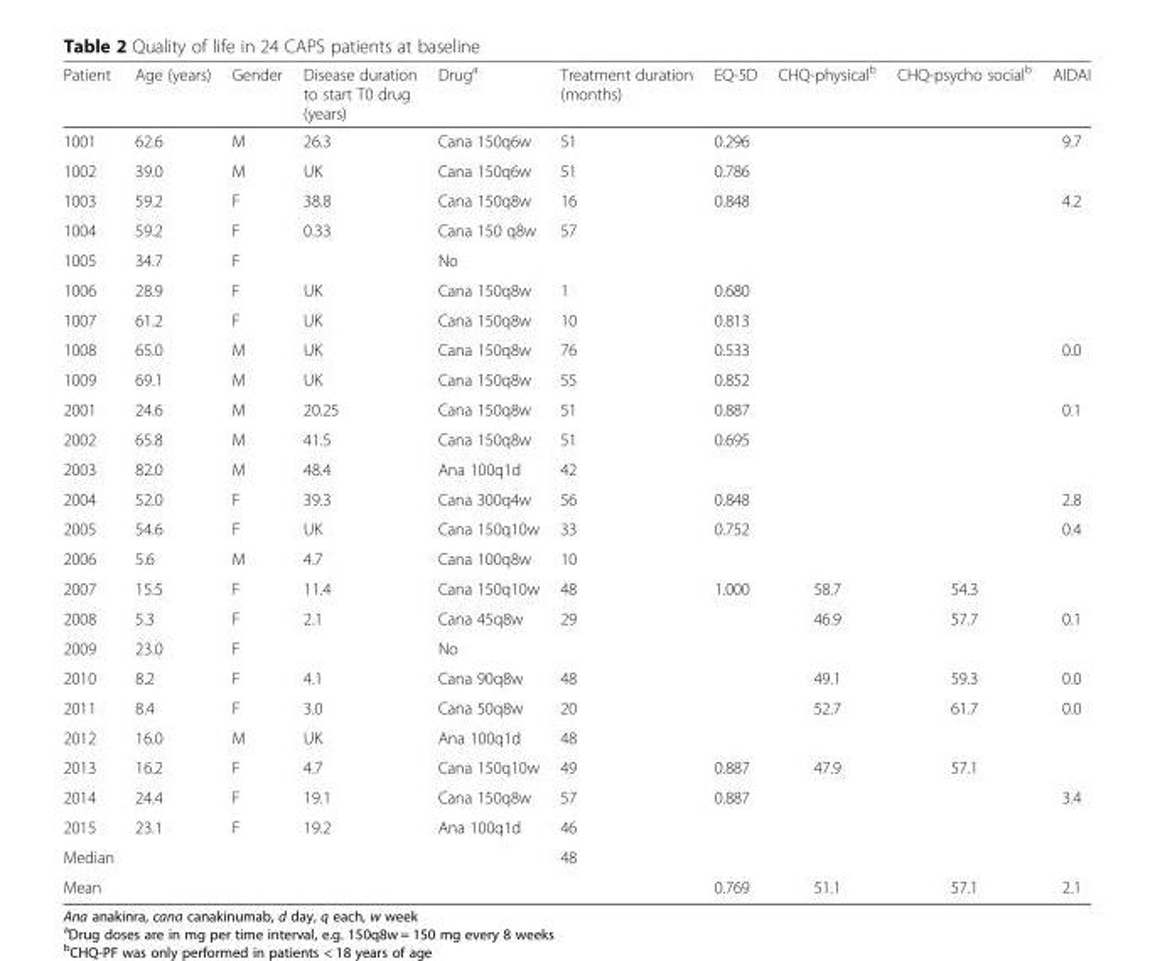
<table><thead><tr><td>Patient</td><td>Age (years)</td><td>Gender</td><td>Disease duration to start T0 drug (years)</td><td>Drug<sup>a</sup></td><td>Treatment duration (months)</td><td>EQ-5D</td><td>CHQ-physical<sup>b</sup></td><td>CHQ-psycho social<sup>b</sup></td><td>AIDAI</td></tr></thead><tbody><tr><td>1001</td><td>62.6</td><td>M</td><td>26.3</td><td>Cana 150q6w</td><td>51</td><td>0.296</td><td></td><td></td><td>9.7</td></tr><tr><td>1002</td><td>39.0</td><td>M</td><td>UK</td><td>Cana 150q6w</td><td>51</td><td>0.786</td><td></td><td></td><td></td></tr><tr><td>1003</td><td>59.2</td><td>F</td><td>38.8</td><td>Cana 150q8w</td><td>16</td><td>0.848</td><td></td><td></td><td>4.2</td></tr><tr><td>1004</td><td>59.2</td><td>F</td><td>0.33</td><td>Cana 150 q8w</td><td>57</td><td></td><td></td><td></td><td></td></tr><tr><td>1005</td><td>34.7</td><td>F</td><td></td><td>No</td><td></td><td></td><td></td><td></td><td></td></tr><tr><td>1006</td><td>28.9</td><td>F</td><td>UK</td><td>Cana 150q8w</td><td>1</td><td>0.680</td><td></td><td></td><td></td></tr><tr><td>1007</td><td>61.2</td><td>F</td><td>UK</td><td>Cana 150q8w</td><td>10</td><td>0.813</td><td></td><td></td><td></td></tr><tr><td>1008</td><td>65.0</td><td>M</td><td>UK</td><td>Cana 150q8w</td><td>76</td><td>0.533</td><td></td><td></td><td>0.0</td></tr><tr><td>1009</td><td>69.1</td><td>M</td><td>UK</td><td>Cana 150q8w</td><td>55</td><td>0.852</td><td></td><td></td><td></td></tr><tr><td>2001</td><td>24.6</td><td>M</td><td>20.25</td><td>Cana 150q8w</td><td>51</td><td>0.887</td><td></td><td></td><td>0.1</td></tr><tr><td>2002</td><td>65.8</td><td>M</td><td>41.5</td><td>Cana 150q8w</td><td>51</td><td>0.695</td><td></td><td></td><td></td></tr><tr><td>2003</td><td>82.0</td><td>M</td><td>48.4</td><td>Ana 100q1d</td><td>42</td><td></td><td></td><td></td><td></td></tr><tr><td>2004</td><td>52.0</td><td>F</td><td>39.3</td><td>Cana 300q4w</td><td>56</td><td>0.848</td><td></td><td></td><td>2.8</td></tr><tr><td>2005</td><td>54.6</td><td>F</td><td>UK</td><td>Cana 150q10w</td><td>33</td><td>0.752</td><td></td><td></td><td>0.4</td></tr><tr><td>2006</td><td>5.6</td><td>M</td><td>4.7</td><td>Cana 100q8w</td><td>10</td><td></td><td></td><td></td><td></td></tr><tr><td>2007</td><td>15.5</td><td>F</td><td>11.4</td><td>Cana 150q10w</td><td>48</td><td>1.000</td><td>58.7</td><td>54.3</td><td></td></tr><tr><td>2008</td><td>5.3</td><td>F</td><td>2.1</td><td>Cana 45q8w</td><td>29</td><td></td><td>46.9</td><td>57.7</td><td>0.1</td></tr><tr><td>2009</td><td>23.0</td><td>F</td><td></td><td>No</td><td></td><td></td><td></td><td></td><td></td></tr><tr><td>2010</td><td>8.2</td><td>F</td><td>4.1</td><td>Cana 90q8w</td><td>48</td><td></td><td>49.1</td><td>59.3</td><td>0.0</td></tr><tr><td>2011</td><td>8.4</td><td>F</td><td>3.0</td><td>Cana 50q8w</td><td>20</td><td></td><td>52.7</td><td>61.7</td><td>0.0</td></tr><tr><td>2012</td><td>16.0</td><td>M</td><td>UK</td><td>Ana 100q1d</td><td>48</td><td></td><td></td><td></td><td></td></tr><tr><td>2013</td><td>16.2</td><td>F</td><td>4.7</td><td>Cana 150q10w</td><td>49</td><td>0.887</td><td>47.9</td><td>57.1</td><td></td></tr><tr><td>2014</td><td>24.4</td><td>F</td><td>19.1</td><td>Cana 150q8w</td><td>57</td><td>0.887</td><td></td><td></td><td>3.4</td></tr><tr><td>2015</td><td>23.1</td><td>F</td><td>19.2</td><td>Ana 100q1d</td><td>46</td><td></td><td></td><td></td><td></td></tr><tr><td>Median</td><td></td><td></td><td></td><td></td><td>48</td><td></td><td></td><td></td><td></td></tr><tr><td>Mean</td><td></td><td></td><td></td><td></td><td></td><td>0.769</td><td>51.1</td><td>57.1</td><td>2.1</td></tr></tbody></table>